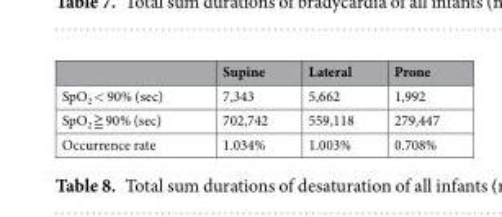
<table><thead><tr><td></td><td>Supine</td><td>Lateral</td><td>Prone</td></tr></thead><tbody><tr><td>SpO<sub>2</sub> &lt; 90% (sec)</td><td>7,343</td><td>5,662</td><td>1,992</td></tr><tr><td>SpO<sub>2</sub> ≧ 90% (sec)</td><td>702,742</td><td>559,118</td><td>279,447</td></tr><tr><td>Occurrence rate</td><td>1.034%</td><td>1.003%</td><td>0.708%</td></tr></tbody></table>